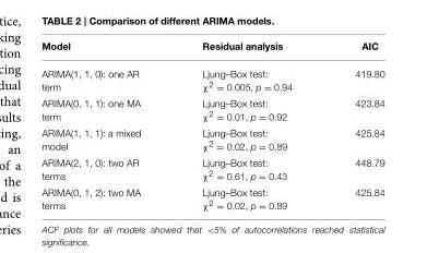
<table><thead><tr><td>Model</td><td>Residual analysis</td><td>AIC</td></tr></thead><tbody><tr><td>ARIMA(1, 1, 0): one AR term</td><td>Ljung–Box test: χ<sup>2</sup> = 0.005, p = 0.94</td><td>419.80</td></tr><tr><td>ARIMA(0, 1, 1): one MA term</td><td>Ljung–Box test: χ<sup>2</sup> = 0.01, p = 0.92</td><td>423.84</td></tr><tr><td>ARIMA(1, 1, 1): a mixed model</td><td>Ljung–Box test: χ<sup>2</sup> = 0.02, p = 0.89</td><td>425.84</td></tr><tr><td>ARIMA(2, 1, 0): two AR terms</td><td>Ljung–Box test: χ<sup>2</sup> = 0.61, p = 0.43</td><td>448.79</td></tr><tr><td>ARIMA(0, 1, 2): two MA terms</td><td>Ljung–Box test: χ<sup>2</sup> = 0.02, p = 0.89</td><td>425.84</td></tr></tbody></table>